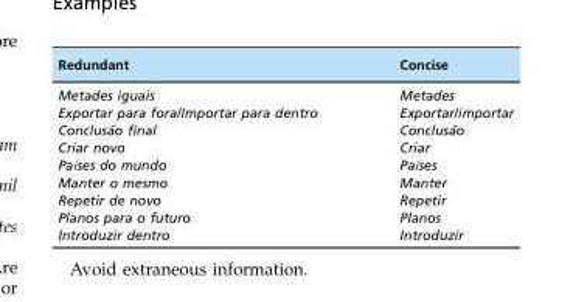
<table><thead><tr><td>Redundant</td><td>Concise</td></tr></thead><tbody><tr><td>Metades iguais</td><td>Metades</td></tr><tr><td>Exportar para fora/Importar para dentro</td><td>Exportar/importar</td></tr><tr><td>Conclusa˜o final</td><td>Conclusa˜o</td></tr><tr><td>Criar novo</td><td>Criar</td></tr><tr><td>Paı´ses do mundo</td><td>Paı´ses</td></tr><tr><td>Manter o mesmo</td><td>Manter</td></tr><tr><td>Repetir de novo</td><td>Repetir</td></tr><tr><td>Planos para o futuro</td><td>Planos</td></tr><tr><td>Introduzir dentro</td><td>Introduzir</td></tr></tbody></table>